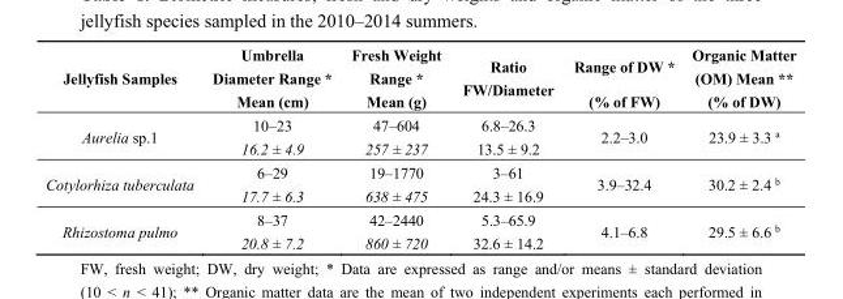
<table><thead><tr><td rowspan="2">Jellyfish Samples</td><td rowspan="2">Umbrella Diameter Range * Mean (cm)</td><td rowspan="2">Fresh Weight Range * Mean (g)</td><td rowspan="2">Ratio FW/Diameter</td><td rowspan="2">Range of DW * (% of FW)</td><td rowspan="2">Organic Matter (OM) Mean ** (% of DW)</td></tr><tr></tr></thead><tbody><tr><td>Aurelia sp.1</td><td>10–23 16.2 ± 4.9</td><td>47–604 257 ± 237</td><td>6.8–26.3 13.5 ± 9.2</td><td>2.2–3.0</td><td>23.9 ± 3.3 <sup>a</sup></td></tr><tr><td>Cotylorhiza tuberculata</td><td>6–29 17.7 ± 6.3</td><td>19–1770 638 ± 475</td><td>3–61 24.3 ± 16.9</td><td>3.9–32.4</td><td>30.2 ± 2.4 <sup>b</sup></td></tr><tr><td>Rhizostoma pulmo</td><td>8–37 20.8 ± 7.2</td><td>42–2440 860 ± 720</td><td>5.3–65.9 32.6 ± 14.2</td><td>4.1–6.8</td><td>29.5 ± 6.6 <sup>b</sup></td></tr></tbody></table>